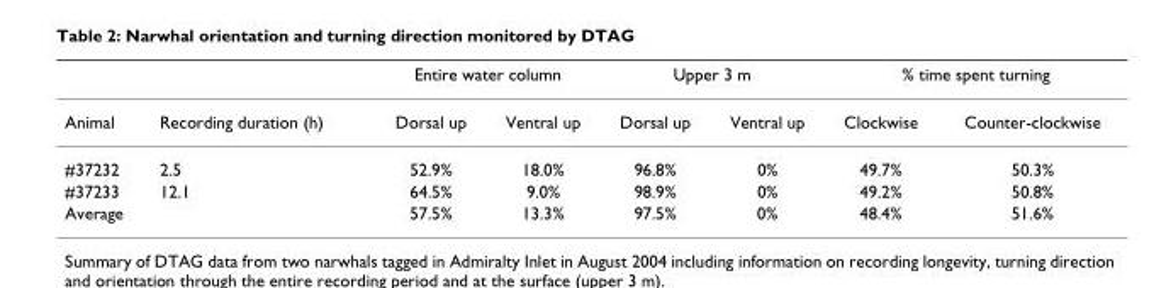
<table><thead><tr><td rowspan="2">Animal</td><td rowspan="2">Recording duration (h)</td><td colspan="2">Entire water column</td><td colspan="2">Upper 3 m</td><td colspan="2">% time spent turning</td></tr><tr><td>Dorsal up</td><td>Ventral up</td><td>Dorsal up</td><td>Ventral up</td><td>Clockwise</td><td>Counter-clockwise</td></tr></thead><tbody><tr><td>#37232</td><td>2.5</td><td>52.9%</td><td>18.0%</td><td>96.8%</td><td>0%</td><td>49.7%</td><td>50.3%</td></tr><tr><td>#37233</td><td>12.1</td><td>64.5%</td><td>9.0%</td><td>98.9%</td><td>0%</td><td>49.2%</td><td>50.8%</td></tr><tr><td>Average</td><td></td><td>57.5%</td><td>13.3%</td><td>97.5%</td><td>0%</td><td>48.4%</td><td>51.6%</td></tr></tbody></table>